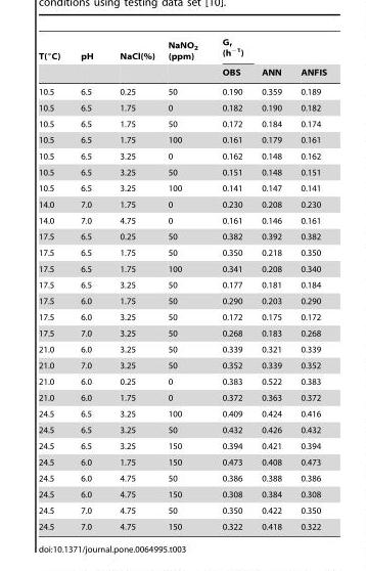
<table><thead><tr><td rowspan="2">T(°C)</td><td rowspan="2">pH</td><td rowspan="2">NaCl(%)</td><td rowspan="2">NaNO<sub>2</sub> (ppm)</td><td rowspan="2">G<sub>r</sub> (h<sup>−1</sup>) OBS</td><td rowspan="2">ANN</td><td rowspan="2">ANFIS</td></tr><tr></tr></thead><tbody><tr><td>10.5</td><td>6.5</td><td>0.25</td><td>50</td><td>0.190</td><td>0.359</td><td>0.189</td></tr><tr><td>10.5</td><td>6.5</td><td>1.75</td><td>0</td><td>0.182</td><td>0.190</td><td>0.182</td></tr><tr><td>10.5</td><td>6.5</td><td>1.75</td><td>50</td><td>0.172</td><td>0.184</td><td>0.174</td></tr><tr><td>10.5</td><td>6.5</td><td>1.75</td><td>100</td><td>0.161</td><td>0.179</td><td>0.161</td></tr><tr><td>10.5</td><td>6.5</td><td>3.25</td><td>0</td><td>0.162</td><td>0.148</td><td>0.162</td></tr><tr><td>10.5</td><td>6.5</td><td>3.25</td><td>50</td><td>0.151</td><td>0.148</td><td>0.151</td></tr><tr><td>10.5</td><td>6.5</td><td>3.25</td><td>100</td><td>0.141</td><td>0.147</td><td>0.141</td></tr><tr><td>14.0</td><td>7.0</td><td>1.75</td><td>0</td><td>0.230</td><td>0.208</td><td>0.230</td></tr><tr><td>14.0</td><td>7.0</td><td>4.75</td><td>0</td><td>0.161</td><td>0.146</td><td>0.161</td></tr><tr><td>17.5</td><td>6.5</td><td>0.25</td><td>50</td><td>0.382</td><td>0.392</td><td>0.382</td></tr><tr><td>17.5</td><td>6.5</td><td>1.75</td><td>50</td><td>0.350</td><td>0.218</td><td>0.350</td></tr><tr><td>17.5</td><td>6.5</td><td>1.75</td><td>100</td><td>0.341</td><td>0.208</td><td>0.340</td></tr><tr><td>17.5</td><td>6.5</td><td>3.25</td><td>50</td><td>0.177</td><td>0.181</td><td>0.184</td></tr><tr><td>17.5</td><td>6.0</td><td>1.75</td><td>50</td><td>0.290</td><td>0.203</td><td>0.290</td></tr><tr><td>17.5</td><td>6.0</td><td>3.25</td><td>50</td><td>0.172</td><td>0.175</td><td>0.172</td></tr><tr><td>17.5</td><td>7.0</td><td>3.25</td><td>50</td><td>0.268</td><td>0.183</td><td>0.268</td></tr><tr><td>21.0</td><td>6.0</td><td>3.25</td><td>50</td><td>0.339</td><td>0.321</td><td>0.339</td></tr><tr><td>21.0</td><td>7.0</td><td>3.25</td><td>50</td><td>0.352</td><td>0.339</td><td>0.352</td></tr><tr><td>21.0</td><td>6.0</td><td>0.25</td><td>0</td><td>0.383</td><td>0.522</td><td>0.383</td></tr><tr><td>21.0</td><td>6.0</td><td>1.75</td><td>0</td><td>0.372</td><td>0.363</td><td>0.372</td></tr><tr><td>24.5</td><td>6.5</td><td>3.25</td><td>100</td><td>0.409</td><td>0.424</td><td>0.416</td></tr><tr><td>24.5</td><td>6.5</td><td>3.25</td><td>50</td><td>0.432</td><td>0.426</td><td>0.432</td></tr><tr><td>24.5</td><td>6.5</td><td>3.25</td><td>150</td><td>0.394</td><td>0.421</td><td>0.394</td></tr><tr><td>24.5</td><td>6.0</td><td>1.75</td><td>150</td><td>0.473</td><td>0.408</td><td>0.473</td></tr><tr><td>24.5</td><td>6.0</td><td>4.75</td><td>50</td><td>0.386</td><td>0.388</td><td>0.386</td></tr><tr><td>24.5</td><td>6.0</td><td>4.75</td><td>150</td><td>0.308</td><td>0.384</td><td>0.308</td></tr><tr><td>24.5</td><td>7.0</td><td>4.75</td><td>50</td><td>0.350</td><td>0.422</td><td>0.350</td></tr><tr><td>24.5</td><td>7.0</td><td>4.75</td><td>150</td><td>0.322</td><td>0.418</td><td>0.322</td></tr></tbody></table>